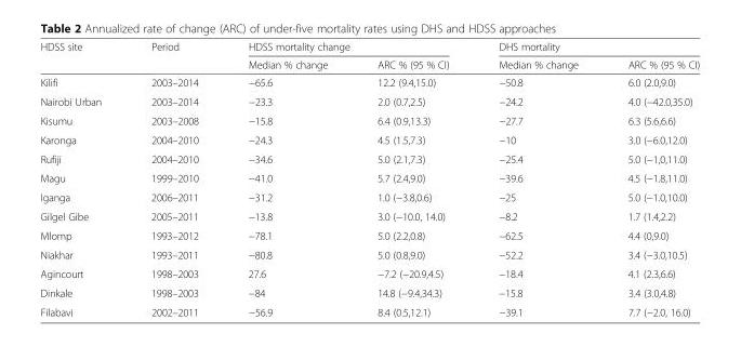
<table><thead><tr><td rowspan="2">HDSS site</td><td rowspan="2">Period</td><td colspan="2">HDSS mortality change</td><td colspan="2">DHS mortality</td></tr><tr><td>Median % change</td><td>ARC % (95 % CI)</td><td>Median % change</td><td>ARC % (95 % CI)</td></tr></thead><tbody><tr><td>Kilifi</td><td>2003–2014</td><td>−65.6</td><td>12.2 (9.4,15.0)</td><td>−50.8</td><td>6.0 (2.0,9.0)</td></tr><tr><td>Nairobi Urban</td><td>2003–2014</td><td>−23.3</td><td>2.0 (0.7,2.5)</td><td>−24.2</td><td>4.0 (−42.0,35.0)</td></tr><tr><td>Kisumu</td><td>2003–2008</td><td>−15.8</td><td>6.4 (0.9,13.3)</td><td>−27.7</td><td>6.3 (5.6,6.6)</td></tr><tr><td>Karonga</td><td>2004–2010</td><td>−24.3</td><td>4.5 (1.5,7.3)</td><td>−10</td><td>3.0 (−6.0,12.0)</td></tr><tr><td>Rufiji</td><td>2004–2010</td><td>−34.6</td><td>5.0 (2.1,7.3)</td><td>−25.4</td><td>5.0 (−1,0,11.0)</td></tr><tr><td>Magu</td><td>1999–2010</td><td>−41.0</td><td>5.7 (2.4,9.0)</td><td>−39.6</td><td>4.5 (−1.8,11.0)</td></tr><tr><td>Iganga</td><td>2006–2011</td><td>−31.2</td><td>1.0 (−3.8,0.6)</td><td>−25</td><td>5.0 (−1.0,10.0)</td></tr><tr><td>Gilgel Gibe</td><td>2005–2011</td><td>−13.8</td><td>3.0 (−10.0, 14.0)</td><td>−8.2</td><td>1.7 (1.4,2.2)</td></tr><tr><td>Mlomp</td><td>1993–2012</td><td>−78.1</td><td>5.0 (2.2,0.8)</td><td>−62.5</td><td>4.4 (0,9.0)</td></tr><tr><td>Niakhar</td><td>1993–2011</td><td>−80.8</td><td>5.0 (0.8,9.0)</td><td>−52.2</td><td>3.4 (−3.0,10.5)</td></tr><tr><td>Agincourt</td><td>1998–2003</td><td>27.6</td><td>−7.2 (−20.9,4.5)</td><td>−18.4</td><td>4.1 (2.3,6.6)</td></tr><tr><td>Dinkale</td><td>1998–2003</td><td>−84</td><td>14.8 (−9.4,34.3)</td><td>−15.8</td><td>3.4 (3.0,4.8)</td></tr><tr><td>Filabavi</td><td>2002–2011</td><td>−56.9</td><td>8.4 (0.5,12.1)</td><td>−39.1</td><td>7.7 (−2.0, 16.0)</td></tr></tbody></table>